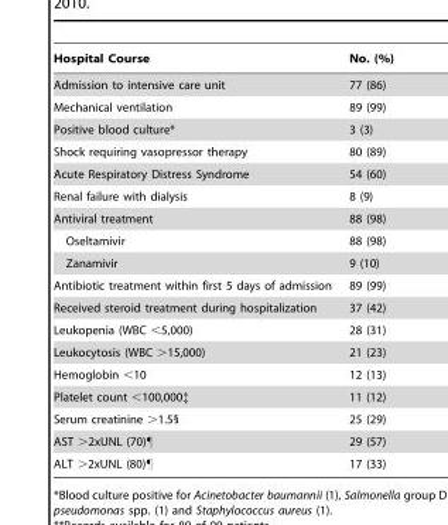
<table><thead><tr><td>Hospital Course</td><td>No. (%)</td></tr></thead><tbody><tr><td>Admission to intensive care unit</td><td>77 (86)</td></tr><tr><td>Mechanical ventilation</td><td>89 (99)</td></tr><tr><td>Positive blood culture*</td><td>3 (3)</td></tr><tr><td>Shock requiring vasopressor therapy</td><td>80 (89)</td></tr><tr><td>Acute Respiratory Distress Syndrome</td><td>54 (60)</td></tr><tr><td>Renal failure with dialysis</td><td>8 (9)</td></tr><tr><td>Antiviral treatment</td><td>88 (98)</td></tr><tr><td>Oseltamivir</td><td>88 (98)</td></tr><tr><td>Zanamivir</td><td>9 (10)</td></tr><tr><td>Antibiotic treatment within first 5 days of admission</td><td>89 (99)</td></tr><tr><td>Received steroid treatment during hospitalization</td><td>37 (42)</td></tr><tr><td>Leukopenia (WBC &lt;5,000)</td><td>28 (31)</td></tr><tr><td>Leukocytosis (WBC &gt;15,000)</td><td>21 (23)</td></tr><tr><td>Hemoglobin &lt;10</td><td>12 (13)</td></tr><tr><td>Platelet count &lt;100,000‡</td><td>11 (12)</td></tr><tr><td>Serum creatinine &gt;1.5§</td><td>25 (29)</td></tr><tr><td>AST &gt;2xUNL (70)¶</td><td>29 (57)</td></tr><tr><td>ALT &gt;2xUNL (80)¶</td><td>17 (33)</td></tr></tbody></table>